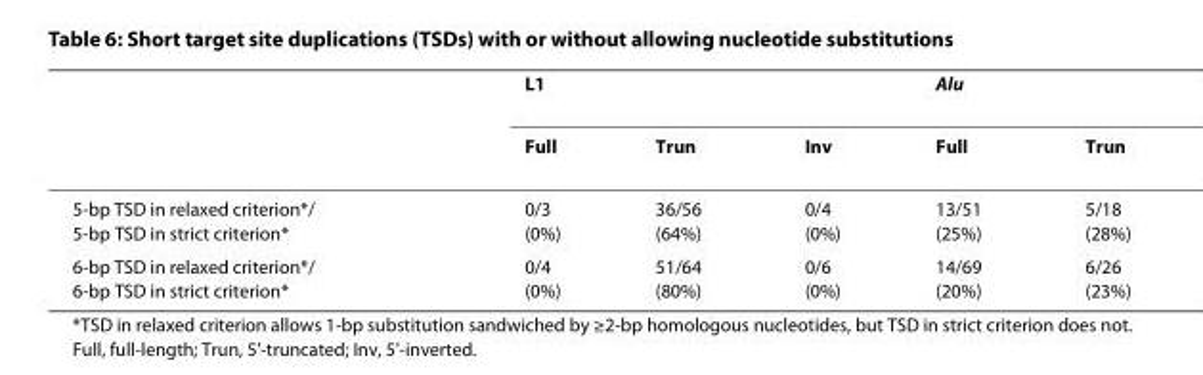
<table><thead><tr><td rowspan="2"></td><td colspan="3">L1</td><td colspan="2">Alu</td></tr><tr><td>Full</td><td>Trun</td><td>Inv</td><td>Full</td><td>Trun</td></tr></thead><tbody><tr><td>5-bp TSD in relaxed criterion*/ 5-bp TSD in strict criterion*</td><td>0/3 (0%)</td><td>36/56 (64%)</td><td>0/4 (0%)</td><td>13/51 (25%)</td><td>5/18 (28%)</td></tr><tr><td>6-bp TSD in relaxed criterion*/ 6-bp TSD in strict criterion*</td><td>0/4 (0%)</td><td>51/64 (80%)</td><td>0/6 (0%)</td><td>14/69 (20%)</td><td>6/26 (23%)</td></tr></tbody></table>